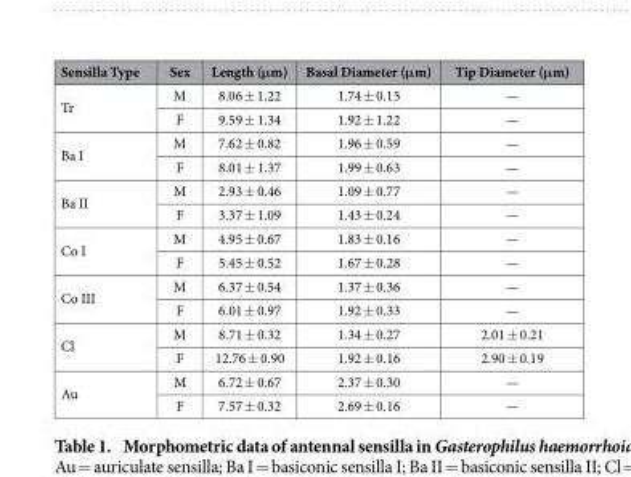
<table><thead><tr><td>Sensilla Type</td><td>Sex</td><td>Length (μm)</td><td>Basal Diameter (μm)</td><td>Tip Diameter (μm)</td></tr></thead><tbody><tr><td rowspan="2">Tr</td><td>M</td><td>8.06 ± 1.22</td><td>1.74 ± 0.15</td><td>—</td></tr><tr><td>F</td><td>9.59 ± 1.34</td><td>1.92 ± 1.22</td><td>—</td></tr><tr><td rowspan="2">Ba I</td><td>M</td><td>7.62 ± 0.82</td><td>1.96 ± 0.59</td><td>—</td></tr><tr><td>F</td><td>8.01 ± 1.37</td><td>1.99 ± 0.63</td><td>—</td></tr><tr><td rowspan="2">Ba II</td><td>M</td><td>2.93 ± 0.46</td><td>1.09 ± 0.77</td><td>—</td></tr><tr><td>F</td><td>3.37 ± 1.09</td><td>1.43 ± 0.24</td><td>—</td></tr><tr><td rowspan="2">Co I</td><td>M</td><td>4.95 ± 0.67</td><td>1.83 ± 0.16</td><td>—</td></tr><tr><td>F</td><td>5.45 ± 0.52</td><td>1.67 ± 0.28</td><td>—</td></tr><tr><td rowspan="2">Co III</td><td>M</td><td>6.37 ± 0.54</td><td>1.37 ± 0.36</td><td>—</td></tr><tr><td>F</td><td>6.01 ± 0.97</td><td>1.92 ± 0.33</td><td>—</td></tr><tr><td rowspan="2">Cl</td><td>M</td><td>8.71 ± 0.32</td><td>1.34 ± 0.27</td><td>2.01 ± 0.21</td></tr><tr><td>F</td><td>12.76 ± 0.90</td><td>1.92 ± 0.16</td><td>2.90 ± 0.19</td></tr><tr><td rowspan="2">Au</td><td>M</td><td>6.72 ± 0.67</td><td>2.37 ± 0.30</td><td>—</td></tr><tr><td>F</td><td>7.57 ± 0.32</td><td>2.69 ± 0.16</td><td>—</td></tr></tbody></table>